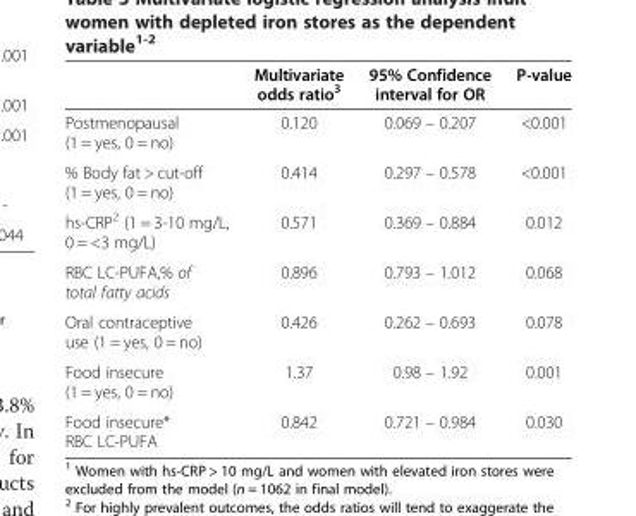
<table><thead><tr><td></td><td>Multivariate odds ratio<sup>3</sup></td><td>95% Confidence interval for OR</td><td>P-value</td></tr></thead><tbody><tr><td>Postmenopausal (1 = yes, 0 = no)</td><td>0.120</td><td>0.069 – 0.207</td><td>&lt;0.001</td></tr><tr><td>% Body fat &gt; cut-off (1 = yes, 0 = no)</td><td>0.414</td><td>0.297 – 0.578</td><td>&lt;0.001</td></tr><tr><td>hs-CRP<sup>2</sup> (1 = 3-10 mg/L, 0 = &lt;3 mg/L)</td><td>0.571</td><td>0.369 – 0.884</td><td>0.012</td></tr><tr><td>RBC LC-PUFA,% of total fatty acids</td><td>0.896</td><td>0.793 – 1.012</td><td>0.068</td></tr><tr><td>Oral contraceptive use (1 = yes, 0 = no)</td><td>0.426</td><td>0.262 – 0.693</td><td>0.078</td></tr><tr><td>Food insecure (1 = yes, 0 = no)</td><td>1.37</td><td>0.98 – 1.92</td><td>0.001</td></tr><tr><td>Food insecure* RBC LC-PUFA</td><td>0.842</td><td>0.721 – 0.984</td><td>0.030</td></tr></tbody></table>